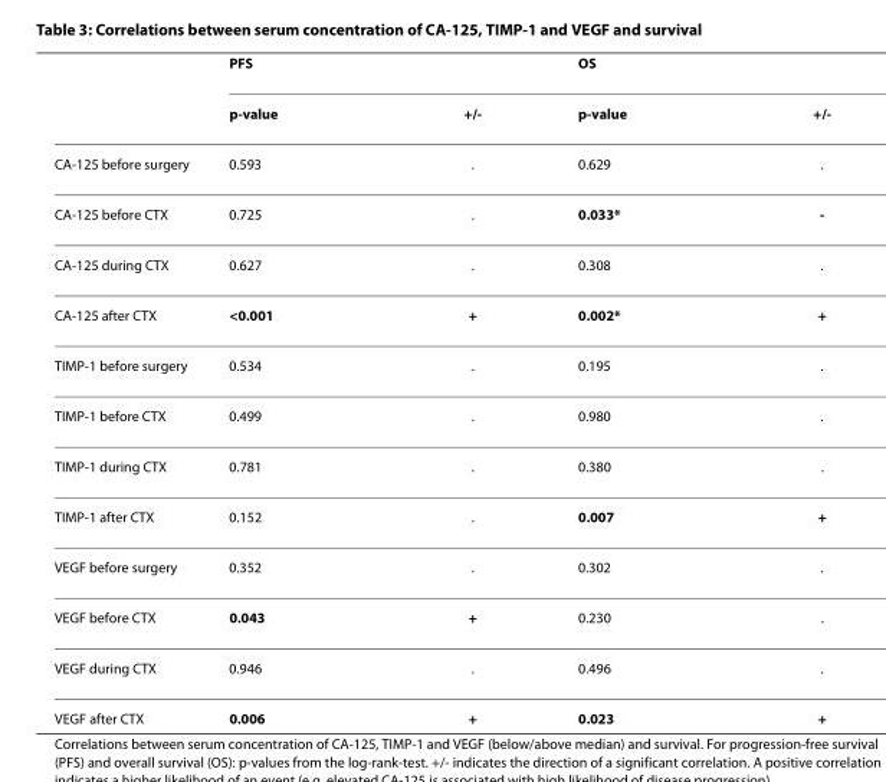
<table><thead><tr><td rowspan="2"></td><td rowspan="2">PFS p-value</td><td rowspan="2">+/-</td><td rowspan="2">OS p-value</td><td rowspan="2">+/-</td></tr><tr></tr></thead><tbody><tr><td>CA-125 before surgery</td><td>0.593</td><td>.</td><td>0.629</td><td>.</td></tr><tr><td>CA-125 before CTX</td><td>0.725</td><td>.</td><td>0.033*</td><td>-</td></tr><tr><td>CA-125 during CTX</td><td>0.627</td><td>.</td><td>0.308</td><td>.</td></tr><tr><td>CA-125 after CTX</td><td>&lt;0.001</td><td>+</td><td>0.002*</td><td>+</td></tr><tr><td>TIMP-1 before surgery</td><td>0.534</td><td>.</td><td>0.195</td><td>.</td></tr><tr><td>TIMP-1 before CTX</td><td>0.499</td><td>.</td><td>0.980</td><td>.</td></tr><tr><td>TIMP-1 during CTX</td><td>0.781</td><td>.</td><td>0.380</td><td>.</td></tr><tr><td>TIMP-1 after CTX</td><td>0.152</td><td>.</td><td>0.007</td><td>+</td></tr><tr><td>VEGF before surgery</td><td>0.352</td><td>.</td><td>0.302</td><td>.</td></tr><tr><td>VEGF before CTX</td><td>0.043</td><td>+</td><td>0.230</td><td>.</td></tr><tr><td>VEGF during CTX</td><td>0.946</td><td>.</td><td>0.496</td><td>.</td></tr><tr><td>VEGF after CTX</td><td>0.006</td><td>+</td><td>0.023</td><td>+</td></tr></tbody></table>